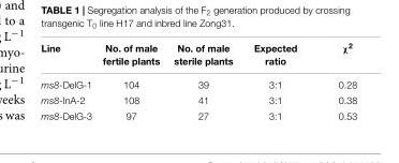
<table><thead><tr><td>Line</td><td>No. of male fertile plants</td><td>No. of male sterile plants</td><td>Expected ratio</td><td>χ<sup>2</sup></td></tr></thead><tbody><tr><td>ms8-DelG-1</td><td>104</td><td>39</td><td>3:1</td><td>0.28</td></tr><tr><td>ms8-InA-2</td><td>108</td><td>41</td><td>3:1</td><td>0.38</td></tr><tr><td>ms8-DelG-3</td><td>97</td><td>27</td><td>3:1</td><td>0.53</td></tr></tbody></table>